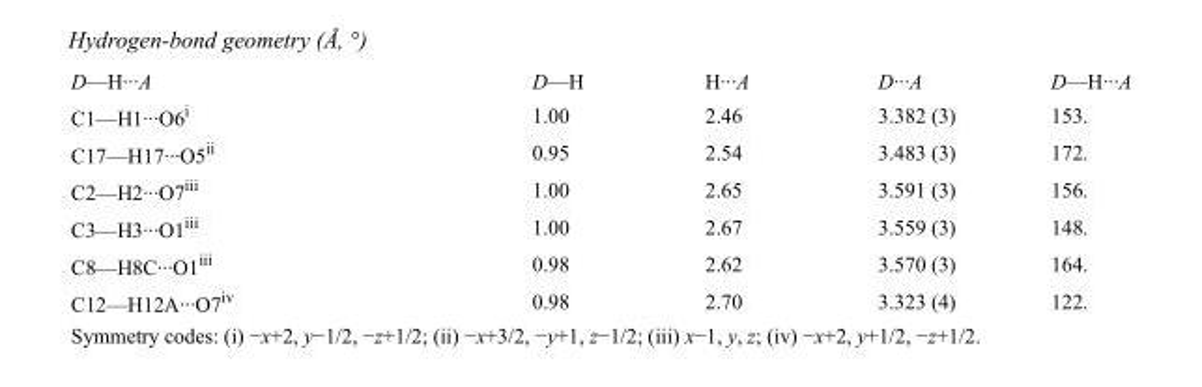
<table><tbody><tr><td>D—H···A</td><td>D—H</td><td>H···A</td><td>D···A</td><td>D—H···A</td></tr><tr><td>C1—H1···O6<sup>i</sup></td><td>1.00</td><td>2.46</td><td>3.382 (3)</td><td>153.</td></tr><tr><td>C17—H17···O5<sup>ii</sup></td><td>0.95</td><td>2.54</td><td>3.483 (3)</td><td>172.</td></tr><tr><td>C2—H2···O7<sup>iii</sup></td><td>1.00</td><td>2.65</td><td>3.591 (3)</td><td>156.</td></tr><tr><td>C3—H3···O1<sup>iii</sup></td><td>1.00</td><td>2.67</td><td>3.559 (3)</td><td>148.</td></tr><tr><td>C8—H8C···O1<sup>iii</sup></td><td>0.98</td><td>2.62</td><td>3.570 (3)</td><td>164.</td></tr><tr><td>C12—H12A···O7<sup>iv</sup></td><td>0.98</td><td>2.70</td><td>3.323 (4)</td><td>122.</td></tr></tbody></table>